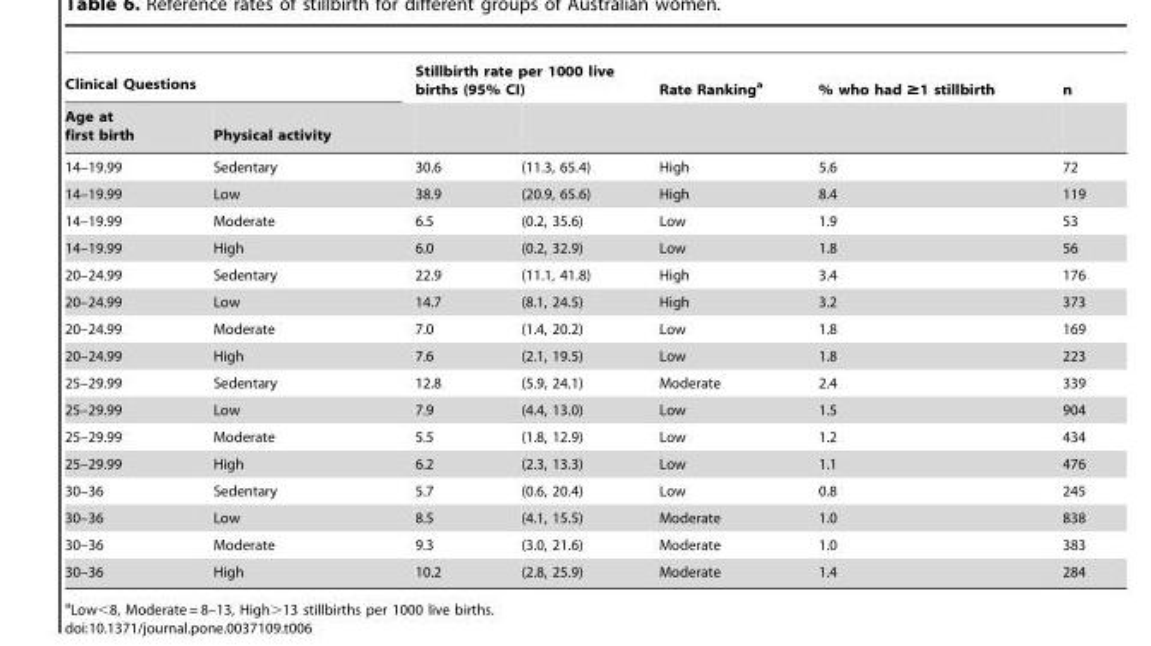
<table><thead><tr><td colspan="2">Clinical Questions</td><td colspan="2">Stillbirth rate per 1000 live births (95% CI)</td><td rowspan="2">Rate Ranking<sup>a</sup></td><td rowspan="2">% who had ≥1 stillbirth</td><td rowspan="2">n</td></tr><tr><td>Age at first birth</td><td>Physical activity</td><td></td><td></td></tr></thead><tbody><tr><td>14–19.99</td><td>Sedentary</td><td>30.6</td><td>(11.3, 65.4)</td><td>High</td><td>5.6</td><td>72</td></tr><tr><td>14–19.99</td><td>Low</td><td>38.9</td><td>(20.9, 65.6)</td><td>High</td><td>8.4</td><td>119</td></tr><tr><td>14–19.99</td><td>Moderate</td><td>6.5</td><td>(0.2, 35.6)</td><td>Low</td><td>1.9</td><td>53</td></tr><tr><td>14–19.99</td><td>High</td><td>6.0</td><td>(0.2, 32.9)</td><td>Low</td><td>1.8</td><td>56</td></tr><tr><td>20–24.99</td><td>Sedentary</td><td>22.9</td><td>(11.1, 41.8)</td><td>High</td><td>3.4</td><td>176</td></tr><tr><td>20–24.99</td><td>Low</td><td>14.7</td><td>(8.1, 24.5)</td><td>High</td><td>3.2</td><td>373</td></tr><tr><td>20–24.99</td><td>Moderate</td><td>7.0</td><td>(1.4, 20.2)</td><td>Low</td><td>1.8</td><td>169</td></tr><tr><td>20–24.99</td><td>High</td><td>7.6</td><td>(2.1, 19.5)</td><td>Low</td><td>1.8</td><td>223</td></tr><tr><td>25–29.99</td><td>Sedentary</td><td>12.8</td><td>(5.9, 24.1)</td><td>Moderate</td><td>2.4</td><td>339</td></tr><tr><td>25–29.99</td><td>Low</td><td>7.9</td><td>(4.4, 13.0)</td><td>Low</td><td>1.5</td><td>904</td></tr><tr><td>25–29.99</td><td>Moderate</td><td>5.5</td><td>(1.8, 12.9)</td><td>Low</td><td>1.2</td><td>434</td></tr><tr><td>25–29.99</td><td>High</td><td>6.2</td><td>(2.3, 13.3)</td><td>Low</td><td>1.1</td><td>476</td></tr><tr><td>30–36</td><td>Sedentary</td><td>5.7</td><td>(0.6, 20.4)</td><td>Low</td><td>0.8</td><td>245</td></tr><tr><td>30–36</td><td>Low</td><td>8.5</td><td>(4.1, 15.5)</td><td>Moderate</td><td>1.0</td><td>838</td></tr><tr><td>30–36</td><td>Moderate</td><td>9.3</td><td>(3.0, 21.6)</td><td>Moderate</td><td>1.0</td><td>383</td></tr><tr><td>30–36</td><td>High</td><td>10.2</td><td>(2.8, 25.9)</td><td>Moderate</td><td>1.4</td><td>284</td></tr></tbody></table>